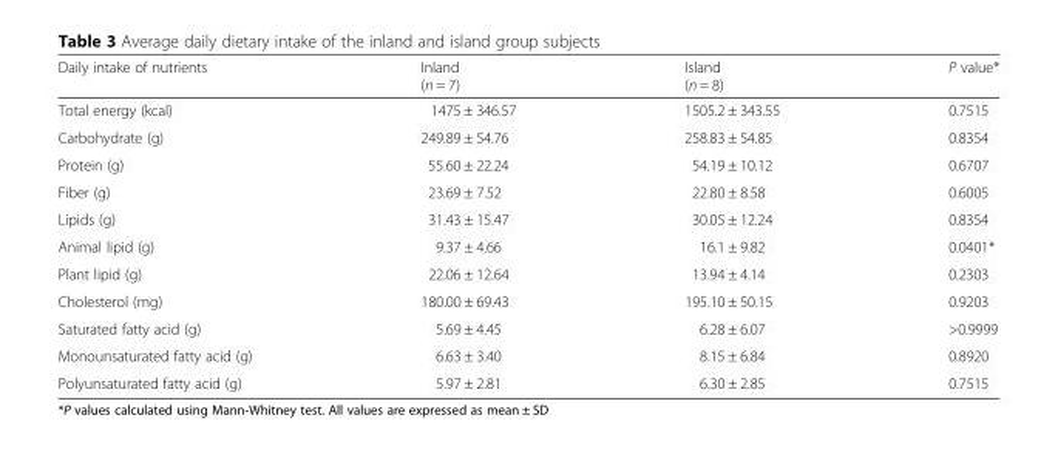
<table><thead><tr><td>Daily intake of nutrients</td><td>Inland (n = 7)</td><td>Island (n = 8)</td><td>P value*</td></tr></thead><tbody><tr><td>Total energy (kcal)</td><td>1475 ± 346.57</td><td>1505.2 ± 343.55</td><td>0.7515</td></tr><tr><td>Carbohydrate (g)</td><td>249.89 ± 54.76</td><td>258.83 ± 54.85</td><td>0.8354</td></tr><tr><td>Protein (g)</td><td>55.60 ± 22.24</td><td>54.19 ± 10.12</td><td>0.6707</td></tr><tr><td>Fiber (g)</td><td>23.69 ± 7.52</td><td>22.80 ± 8.58</td><td>0.6005</td></tr><tr><td>Lipids (g)</td><td>31.43 ± 15.47</td><td>30.05 ± 12.24</td><td>0.8354</td></tr><tr><td>Animal lipid (g)</td><td>9.37 ± 4.66</td><td>16.1 ± 9.82</td><td>0.0401*</td></tr><tr><td>Plant lipid (g)</td><td>22.06 ± 12.64</td><td>13.94 ± 4.14</td><td>0.2303</td></tr><tr><td>Cholesterol (mg)</td><td>180.00 ± 69.43</td><td>195.10 ± 50.15</td><td>0.9203</td></tr><tr><td>Saturated fatty acid (g)</td><td>5.69 ± 4.45</td><td>6.28 ± 6.07</td><td>&gt;0.9999</td></tr><tr><td>Monounsaturated fatty acid (g)</td><td>6.63 ± 3.40</td><td>8.15 ± 6.84</td><td>0.8920</td></tr><tr><td>Polyunsaturated fatty acid (g)</td><td>5.97 ± 2.81</td><td>6.30 ± 2.85</td><td>0.7515</td></tr></tbody></table>